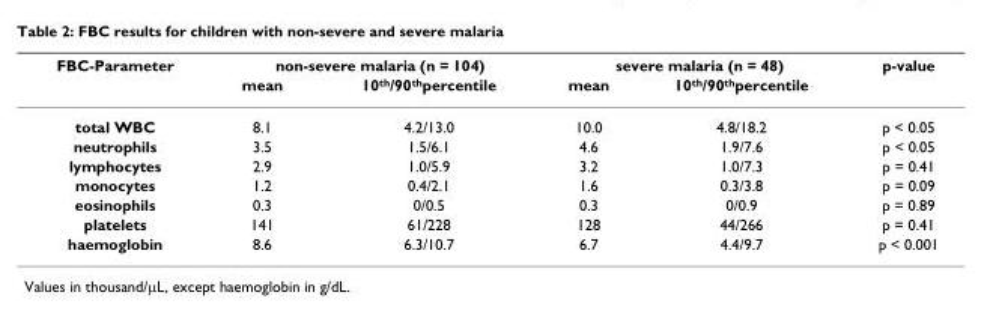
<table><thead><tr><td rowspan="2">FBC-Parameter</td><td colspan="2">non-severe malaria (n = 104)</td><td colspan="2">severe malaria (n = 48)</td><td rowspan="2">p-value</td></tr><tr><td>mean</td><td>10<sup>th</sup>/90<sup>th</sup>percentile</td><td>mean</td><td>10<sup>th</sup>/90<sup>th</sup>percentile</td></tr></thead><tbody><tr><td>total WBC</td><td>8.1</td><td>4.2/13.0</td><td>10.0</td><td>4.8/18.2</td><td>p &lt; 0.05</td></tr><tr><td>neutrophils</td><td>3.5</td><td>1.5/6.1</td><td>4.6</td><td>1.9/7.6</td><td>p &lt; 0.05</td></tr><tr><td>lymphocytes</td><td>2.9</td><td>1.0/5.9</td><td>3.2</td><td>1.0/7.3</td><td>p = 0.41</td></tr><tr><td>monocytes</td><td>1.2</td><td>0.4/2.1</td><td>1.6</td><td>0.3/3.8</td><td>p = 0.09</td></tr><tr><td>eosinophils</td><td>0.3</td><td>0/0.5</td><td>0.3</td><td>0/0.9</td><td>p = 0.89</td></tr><tr><td>platelets</td><td>141</td><td>61/228</td><td>128</td><td>44/266</td><td>p = 0.41</td></tr><tr><td>haemoglobin</td><td>8.6</td><td>6.3/10.7</td><td>6.7</td><td>4.4/9.7</td><td>p &lt; 0.001</td></tr></tbody></table>